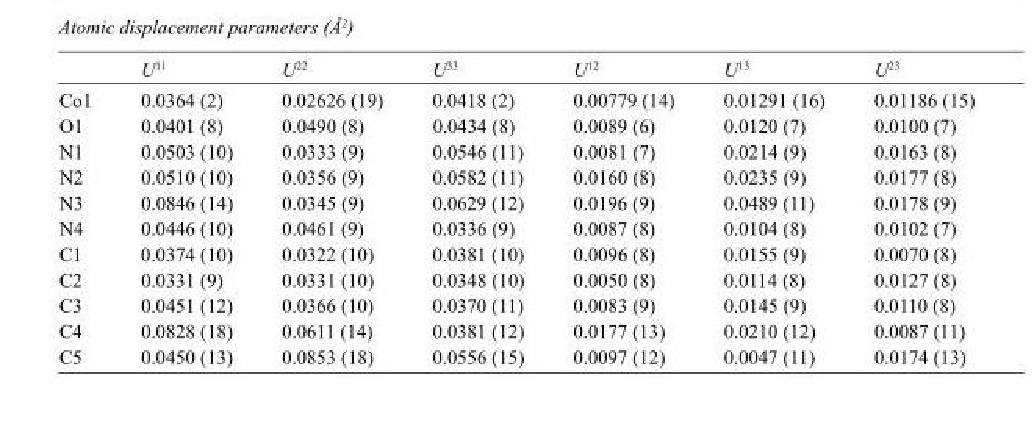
<table><thead><tr><td></td><td>U<sup>11</sup></td><td>U<sup>22</sup></td><td>U<sup>33</sup></td><td>U<sup>12</sup></td><td>U<sup>13</sup></td><td>U<sup>23</sup></td></tr></thead><tbody><tr><td>Co1</td><td>0.0364 (2)</td><td>0.02626 (19)</td><td>0.0418 (2)</td><td>0.00779 (14)</td><td>0.01291 (16)</td><td>0.01186 (15)</td></tr><tr><td>O1</td><td>0.0401 (8)</td><td>0.0490 (8)</td><td>0.0434 (8)</td><td>0.0089 (6)</td><td>0.0120 (7)</td><td>0.0100 (7)</td></tr><tr><td>N1</td><td>0.0503 (10)</td><td>0.0333 (9)</td><td>0.0546 (11)</td><td>0.0081 (7)</td><td>0.0214 (9)</td><td>0.0163 (8)</td></tr><tr><td>N2</td><td>0.0510 (10)</td><td>0.0356 (9)</td><td>0.0582 (11)</td><td>0.0160 (8)</td><td>0.0235 (9)</td><td>0.0177 (8)</td></tr><tr><td>N3</td><td>0.0846 (14)</td><td>0.0345 (9)</td><td>0.0629 (12)</td><td>0.0196 (9)</td><td>0.0489 (11)</td><td>0.0178 (9)</td></tr><tr><td>N4</td><td>0.0446 (10)</td><td>0.0461 (9)</td><td>0.0336 (9)</td><td>0.0087 (8)</td><td>0.0104 (8)</td><td>0.0102 (7)</td></tr><tr><td>C1</td><td>0.0374 (10)</td><td>0.0322 (10)</td><td>0.0381 (10)</td><td>0.0096 (8)</td><td>0.0155 (9)</td><td>0.0070 (8)</td></tr><tr><td>C2</td><td>0.0331 (9)</td><td>0.0331 (10)</td><td>0.0348 (10)</td><td>0.0050 (8)</td><td>0.0114 (8)</td><td>0.0127 (8)</td></tr><tr><td>C3</td><td>0.0451 (12)</td><td>0.0366 (10)</td><td>0.0370 (11)</td><td>0.0083 (9)</td><td>0.0145 (9)</td><td>0.0110 (8)</td></tr><tr><td>C4</td><td>0.0828 (18)</td><td>0.0611 (14)</td><td>0.0381 (12)</td><td>0.0177 (13)</td><td>0.0210 (12)</td><td>0.0087 (11)</td></tr><tr><td>C5</td><td>0.0450 (13)</td><td>0.0853 (18)</td><td>0.0556 (15)</td><td>0.0097 (12)</td><td>0.0047 (11)</td><td>0.0174 (13)</td></tr></tbody></table>